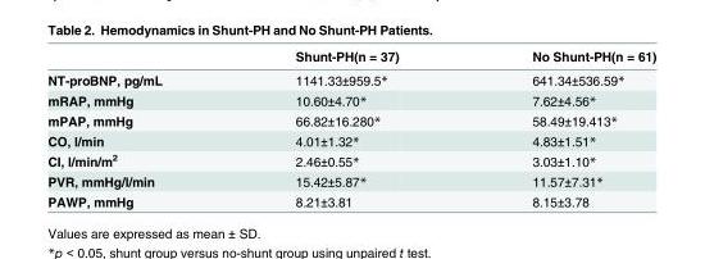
<table><thead><tr><td></td><td>Shunt-PH(n = 37)</td><td>No Shunt-PH(n = 61)</td></tr></thead><tbody><tr><td>NT-proBNP, pg/mL</td><td>1141.33±959.5*</td><td>641.34±536.59*</td></tr><tr><td>mRAP, mmHg</td><td>10.60±4.70*</td><td>7.62±4.56*</td></tr><tr><td>mPAP, mmHg</td><td>66.82±16.280*</td><td>58.49±19.413*</td></tr><tr><td>CO, l/min</td><td>4.01±1.32*</td><td>4.83±1.51*</td></tr><tr><td>CI, l/min/m<sup>2</sup></td><td>2.46±0.55*</td><td>3.03±1.10*</td></tr><tr><td>PVR, mmHg/l/min</td><td>15.42±5.87*</td><td>11.57±7.31*</td></tr><tr><td>PAWP, mmHg</td><td>8.21±3.81</td><td>8.15±3.78</td></tr></tbody></table>